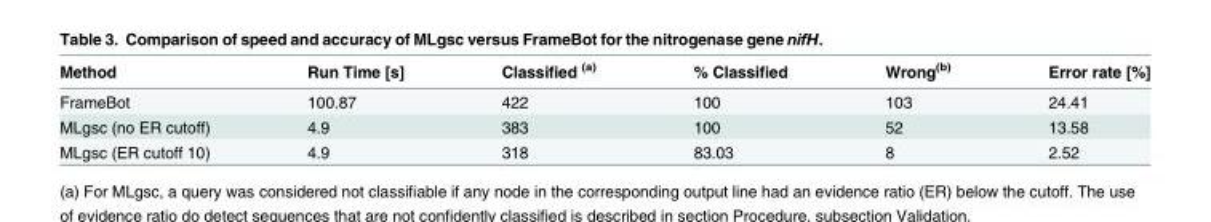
<table><thead><tr><td>Method</td><td>Run Time [s]</td><td>Classified <sup>(a)</sup></td><td>% Classified</td><td>Wrong<sup>(b)</sup></td><td>Error rate [%]</td></tr></thead><tbody><tr><td>FrameBot</td><td>100.87</td><td>422</td><td>100</td><td>103</td><td>24.41</td></tr><tr><td>MLgsc (no ER cutoff)</td><td>4.9</td><td>383</td><td>100</td><td>52</td><td>13.58</td></tr><tr><td>MLgsc (ER cutoff 10)</td><td>4.9</td><td>318</td><td>83.03</td><td>8</td><td>2.52</td></tr></tbody></table>